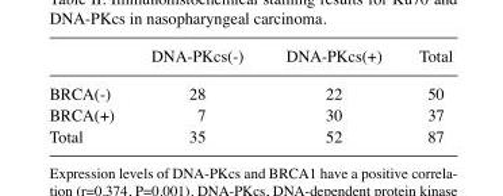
<table><thead><tr><td></td><td>DNA-PKcs(-)</td><td>DNA-PKcs(+)</td><td>Total</td></tr></thead><tbody><tr><td>BRCA(-)</td><td>28</td><td>22</td><td>50</td></tr><tr><td>BRCA(+)</td><td>7</td><td>30</td><td>37</td></tr><tr><td>Total</td><td>35</td><td>52</td><td>87</td></tr></tbody></table>